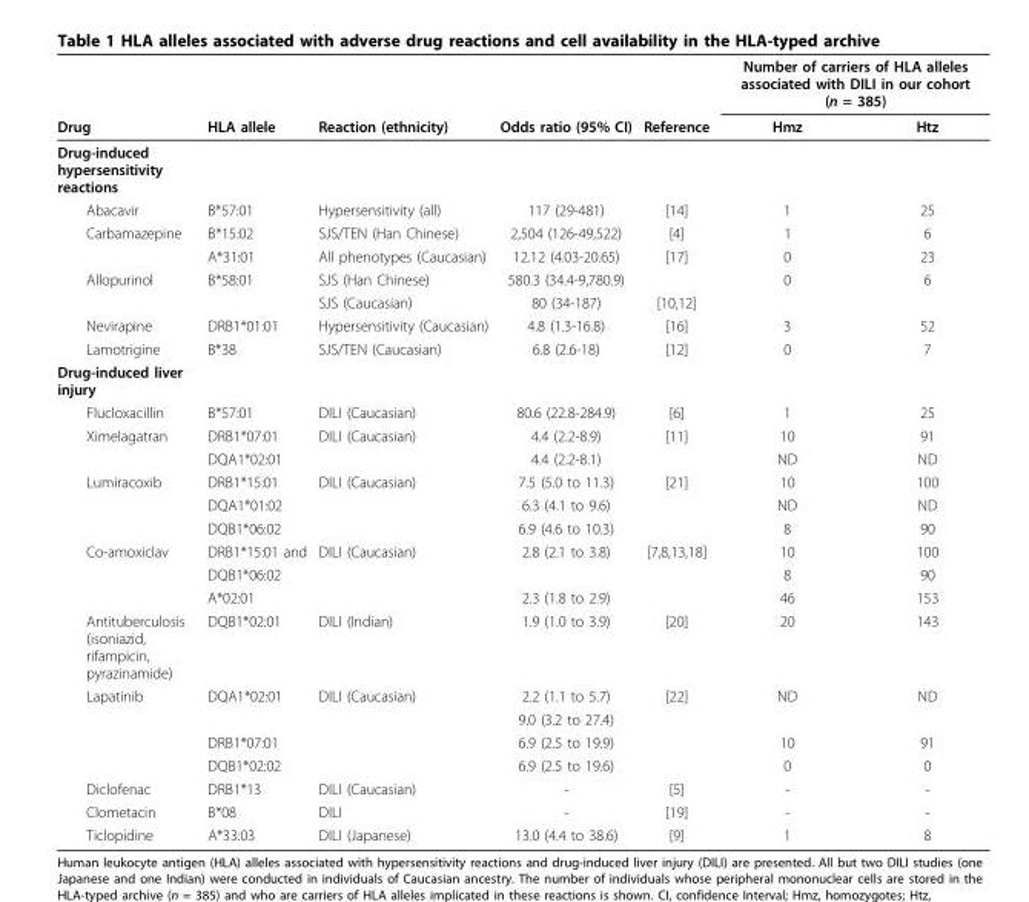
<table><thead><tr><td rowspan="2">Drug</td><td rowspan="2">HLA allele</td><td rowspan="2">Reaction (ethnicity)</td><td rowspan="2">Odds ratio (95% CI)</td><td rowspan="2">Reference</td><td colspan="2">Number of carriers of HLA alleles associated with DILI in our cohort (n = 385)</td></tr><tr><td>Hmz</td><td>Htz</td></tr></thead><tbody><tr><td colspan="7">Drug-induced hypersensitivity reactions</td></tr><tr><td>Abacavir</td><td>B*57:01</td><td>Hypersensitivity (all)</td><td>117 (29-481)</td><td>[14]</td><td>1</td><td>25</td></tr><tr><td rowspan="2">Carbamazepine</td><td>B*15:02</td><td>SJS/TEN (Han Chinese)</td><td>2,504 (126-49,522)</td><td>[4]</td><td>1</td><td>6</td></tr><tr><td>A*31:01</td><td>All phenotypes (Caucasian)</td><td>12.12 (4.03-20.65)</td><td>[17]</td><td>0</td><td>23</td></tr><tr><td rowspan="2">Allopurinol</td><td>B*58:01</td><td>SJS (Han Chinese)</td><td>580.3 (34.4-9,780.9)</td><td></td><td>0</td><td>6</td></tr><tr><td></td><td>SJS (Caucasian)</td><td>80 (34-187)</td><td>[10,12]</td><td></td><td></td></tr><tr><td>Nevirapine</td><td>DRB1*01:01</td><td>Hypersensitivity (Caucasian)</td><td>4.8 (1.3-16.8)</td><td>[16]</td><td>3</td><td>52</td></tr><tr><td>Lamotrigine</td><td>B*38</td><td>SJS/TEN (Caucasian)</td><td>6.8 (2.6-18)</td><td>[12]</td><td>0</td><td>7</td></tr><tr><td colspan="7">Drug-induced liver injury</td></tr><tr><td>Flucloxacillin</td><td>B*57:01</td><td>DILI (Caucasian)</td><td>80.6 (22.8-284.9)</td><td>[6]</td><td>1</td><td>25</td></tr><tr><td rowspan="2">Ximelagatran</td><td>DRB1*07:01</td><td>DILI (Caucasian)</td><td>4.4 (2.2-8.9)</td><td>[11]</td><td>10</td><td>91</td></tr><tr><td>DQA1*02:01</td><td></td><td>4.4 (2.2-8.1)</td><td></td><td>ND</td><td>ND</td></tr><tr><td rowspan="3">Lumiracoxib</td><td>DRB1*15:01</td><td>DILI (Caucasian)</td><td>7.5 (5.0 to 11.3)</td><td>[21]</td><td>10</td><td>100</td></tr><tr><td>DQA1*01:02</td><td></td><td>6.3 (4.1 to 9.6)</td><td></td><td>ND</td><td>ND</td></tr><tr><td>DQB1*06:02</td><td></td><td>6.9 (4.6 to 10.3)</td><td></td><td>8</td><td>90</td></tr><tr><td rowspan="3">Co-amoxiclav</td><td>DRB1*15:01 and</td><td>DILI (Caucasian)</td><td>2.8 (2.1 to 3.8)</td><td>[7,8,13,18]</td><td>10</td><td>100</td></tr><tr><td>DQB1*06:02</td><td></td><td></td><td></td><td>8</td><td>90</td></tr><tr><td>A*02:01</td><td></td><td>2.3 (1.8 to 2.9)</td><td></td><td>46</td><td>153</td></tr><tr><td>Antituberculosis (isoniazid, rifampicin, pyrazinamide)</td><td>DQB1*02:01</td><td>DILI (Indian)</td><td>1.9 (1.0 to 3.9)</td><td>[20]</td><td>20</td><td>143</td></tr><tr><td rowspan="4">Lapatinib</td><td>DQA1*02:01</td><td>DILI (Caucasian)</td><td>2.2 (1.1 to 5.7)</td><td>[22]</td><td>ND</td><td>ND</td></tr><tr><td></td><td></td><td>9.0 (3.2 to 27.4)</td><td></td><td></td><td></td></tr><tr><td>DRB1*07:01</td><td></td><td>6.9 (2.5 to 19.9)</td><td></td><td>10</td><td>91</td></tr><tr><td>DQB1*02:02</td><td></td><td>6.9 (2.5 to 19.6)</td><td></td><td>0</td><td>0</td></tr><tr><td>Diclofenac</td><td>DRB1*13</td><td>DILI (Caucasian)</td><td>-</td><td>[5]</td><td>-</td><td>-</td></tr><tr><td>Clometacin</td><td>B*08</td><td>DILI</td><td>-</td><td>[19]</td><td>-</td><td>-</td></tr><tr><td>Ticlopidine</td><td>A*33:03</td><td>DILI (Japanese)</td><td>13.0 (4.4 to 38.6)</td><td>[9]</td><td>1</td><td>8</td></tr></tbody></table>